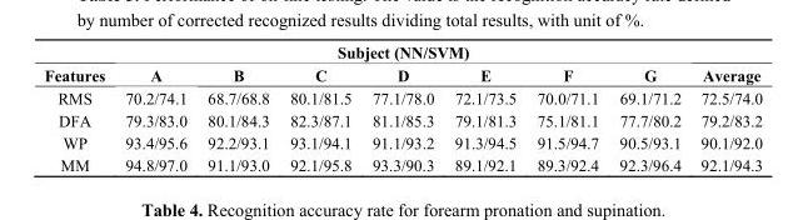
<table><thead><tr><td rowspan="2">Features</td><td colspan="7">Subject (NN/SVM)</td><td rowspan="2">Average</td></tr><tr><td>A</td><td>B</td><td>C</td><td>D</td><td>E</td><td>F</td><td>G</td></tr></thead><tbody><tr><td>RMS</td><td>70.2/74.1</td><td>68.7/68.8</td><td>80.1/81.5</td><td>77.1/78.0</td><td>72.1/73.5</td><td>70.0/71.1</td><td>69.1/71.2</td><td>72.5/74.0</td></tr><tr><td>DFA</td><td>79.3/83.0</td><td>80.1/84.3</td><td>82.3/87.1</td><td>81.1/85.3</td><td>79.1/81.3</td><td>75.1/81.1</td><td>77.7/80.2</td><td>79.2/83.2</td></tr><tr><td>WP</td><td>93.4/95.6</td><td>92.2/93.1</td><td>93.1/94.1</td><td>91.1/93.2</td><td>91.3/94.5</td><td>91.5/94.7</td><td>90.5/93.1</td><td>90.1/92.0</td></tr><tr><td>MM</td><td>94.8/97.0</td><td>91.1/93.0</td><td>92.1/95.8</td><td>93.3/90.3</td><td>89.1/92.1</td><td>89.3/92.4</td><td>92.3/96.4</td><td>92.1/94.3</td></tr></tbody></table>